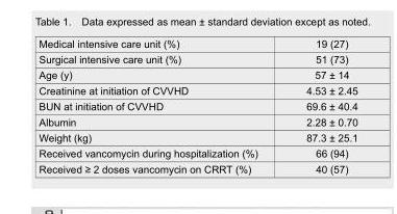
<table><tbody><tr><td>Medical intensive care unit (%)</td><td>19 (27)</td></tr><tr><td>Surgical intensive care unit (%)</td><td>51 (73)</td></tr><tr><td>Age (y)</td><td>57 ± 14</td></tr><tr><td>Creatinine at initiation of CVVHD</td><td>4.53 ± 2.45</td></tr><tr><td>BUN at initiation of CVVHD</td><td>69.6 ± 40.4</td></tr><tr><td>Albumin</td><td>2.28 ± 0.70</td></tr><tr><td>Weight (kg)</td><td>87.3 ± 25.1</td></tr><tr><td>Received vancomycin during hospitalization (%)</td><td>66 (94)</td></tr><tr><td>Received ≥ 2 doses vancomycin on CRRT (%)</td><td>40 (57)</td></tr></tbody></table>